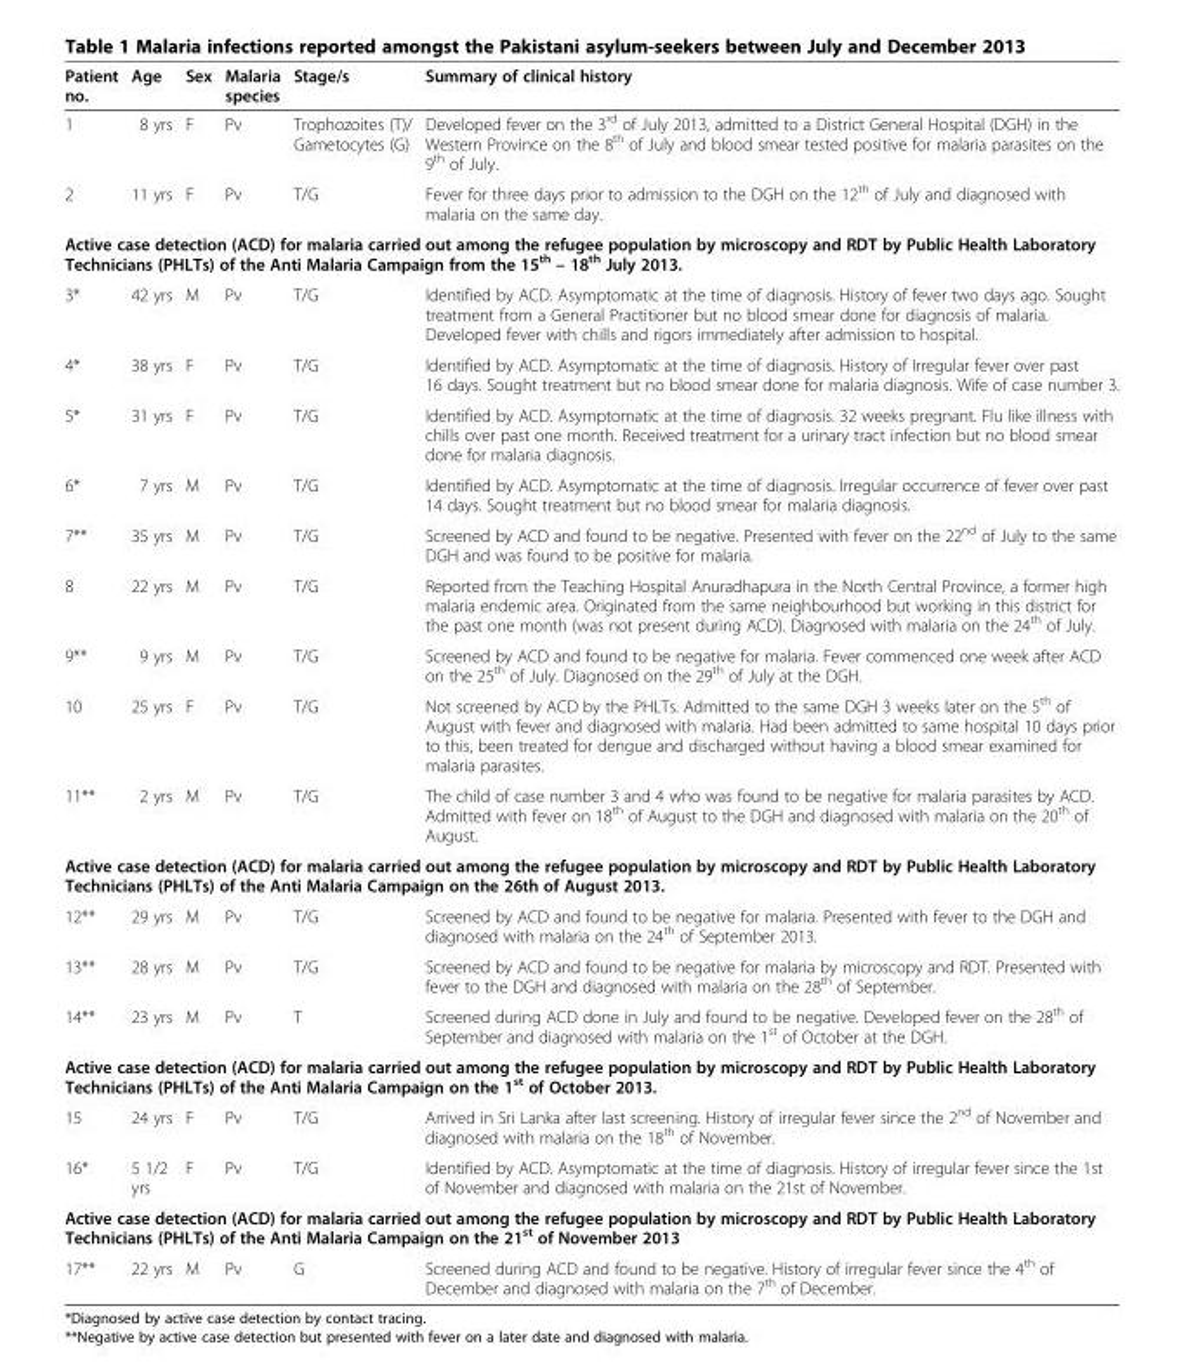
<table><thead><tr><td>Patient no.</td><td>Age</td><td>Sex</td><td>Malaria species</td><td>Stage/s</td><td>Summary of clinical history</td></tr></thead><tbody><tr><td>1</td><td>8 yrs</td><td>F</td><td>Pv</td><td>Trophozoites (T)/ Gametocytes (G)</td><td>Developed fever on the 3<sup>rd</sup> of July 2013, admitted to a District General Hospital (DGH) in the Western Province on the 8<sup>th</sup> of July and blood smear tested positive for malaria parasites on the 9<sup>th</sup> of July.</td></tr><tr><td>2</td><td>11 yrs</td><td>F</td><td>Pv</td><td>T/G</td><td>Fever for three days prior to admission to the DGH on the 12<sup>th</sup> of July and diagnosed with malaria on the same day.</td></tr><tr><td colspan="6">Active case detection (ACD) for malaria carried out among the refugee population by microscopy and RDT by Public Health Laboratory Technicians (PHLTs) of the Anti Malaria Campaign from the 15<sup>th</sup> – 18<sup>th</sup> July 2013.</td></tr><tr><td>3*</td><td>42 yrs</td><td>M</td><td>Pv</td><td>T/G</td><td>Identified by ACD. Asymptomatic at the time of diagnosis. History of fever two days ago. Sought treatment from a General Practitioner but no blood smear done for diagnosis of malaria. Developed fever with chills and rigors immediately after admission to hospital.</td></tr><tr><td>4*</td><td>38 yrs</td><td>F</td><td>Pv</td><td>T/G</td><td>Identified by ACD. Asymptomatic at the time of diagnosis. History of Irregular fever over past 16 days. Sought treatment but no blood smear done for malaria diagnosis. Wife of case number 3.</td></tr><tr><td>5*</td><td>31 yrs</td><td>F</td><td>Pv</td><td>T/G</td><td>Identified by ACD. Asymptomatic at the time of diagnosis. 32 weeks pregnant. Flu like illness with chills over past one month. Received treatment for a urinary tract infection but no blood smear done for malaria diagnosis.</td></tr><tr><td>6*</td><td>7 yrs</td><td>M</td><td>Pv</td><td>T/G</td><td>Identified by ACD. Asymptomatic at the time of diagnosis. Irregular occurrence of fever over past 14 days. Sought treatment but no blood smear for malaria diagnosis.</td></tr><tr><td>7**</td><td>35 yrs</td><td>M</td><td>Pv</td><td>T/G</td><td>Screened by ACD and found to be negative. Presented with fever on the 22<sup>nd</sup> of July to the same DGH and was found to be positive for malaria.</td></tr><tr><td>8</td><td>22 yrs</td><td>M</td><td>Pv</td><td>T/G</td><td>Reported from the Teaching Hospital Anuradhapura in the North Central Province, a former high malaria endemic area. Originated from the same neighbourhood but working in this district for the past one month (was not present during ACD). Diagnosed with malaria on the 24<sup>th</sup> of July.</td></tr><tr><td>9**</td><td>9 yrs</td><td>M</td><td>Pv</td><td>T/G</td><td>Screened by ACD and found to be negative for malaria. Fever commenced one week after ACD on the 25<sup>th</sup> of July. Diagnosed on the 29<sup>th</sup> of July at the DGH.</td></tr><tr><td>10</td><td>25 yrs</td><td>F</td><td>Pv</td><td>T/G</td><td>Not screened by ACD by the PHLTs. Admitted to the same DGH 3 weeks later on the 5<sup>th</sup> of August with fever and diagnosed with malaria. Had been admitted to same hospital 10 days prior to this, been treated for dengue and discharged without having a blood smear examined for malaria parasites.</td></tr><tr><td>11**</td><td>2 yrs</td><td>M</td><td>Pv</td><td>T/G</td><td>The child of case number 3 and 4 who was found to be negative for malaria parasites by ACD. Admitted with fever on 18<sup>th</sup> of August to the DGH and diagnosed with malaria on the 20<sup>th</sup> of August.</td></tr><tr><td colspan="6">Active case detection (ACD) for malaria carried out among the refugee population by microscopy and RDT by Public Health Laboratory Technicians (PHLTs) of the Anti Malaria Campaign on the 26th of August 2013.</td></tr><tr><td>12**</td><td>29 yrs</td><td>M</td><td>Pv</td><td>T/G</td><td>Screened by ACD and found to be negative for malaria. Presented with fever to the DGH and diagnosed with malaria on the 24<sup>th</sup> of September 2013.</td></tr><tr><td>13**</td><td>28 yrs</td><td>M</td><td>Pv</td><td>T/G</td><td>Screened by ACD and found to be negative for malaria by microscopy and RDT. Presented with fever to the DGH and diagnosed with malaria on the 28<sup>th</sup> of September.</td></tr><tr><td>14**</td><td>23 yrs</td><td>M</td><td>Pv</td><td>T</td><td>Screened during ACD done in July and found to be negative. Developed fever on the 28<sup>th</sup> of September and diagnosed with malaria on the 1<sup>st</sup> of October at the DGH.</td></tr><tr><td colspan="6">Active case detection (ACD) for malaria carried out among the refugee population by microscopy and RDT by Public Health Laboratory Technicians (PHLTs) of the Anti Malaria Campaign on the 1<sup>st</sup> of October 2013.</td></tr><tr><td>15</td><td>24 yrs</td><td>F</td><td>Pv</td><td>T/G</td><td>Arrived in Sri Lanka after last screening. History of irregular fever since the 2<sup>nd</sup> of November and diagnosed with malaria on the 18<sup>th</sup> of November.</td></tr><tr><td>16*</td><td>5 1/2 yrs</td><td>F</td><td>Pv</td><td>T/G</td><td>Identified by ACD. Asymptomatic at the time of diagnosis. History of irregular fever since the 1st of November and diagnosed with malaria on the 21st of November.</td></tr><tr><td colspan="6">Active case detection (ACD) for malaria carried out among the refugee population by microscopy and RDT by Public Health Laboratory Technicians (PHLTs) of the Anti Malaria Campaign on the 21<sup>st</sup> of November 2013</td></tr><tr><td>17**</td><td>22 yrs</td><td>M</td><td>Pv</td><td>G</td><td>Screened during ACD and found to be negative. History of irregular fever since the 4<sup>th</sup> of December and diagnosed with malaria on the 7<sup>th</sup> of December.</td></tr></tbody></table>